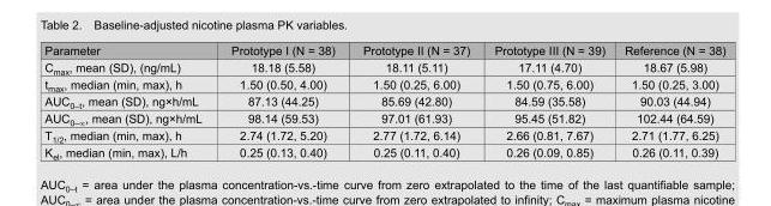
<table><thead><tr><td>Parameter</td><td>Prototype I (N = 38)</td><td>Prototype II (N = 37)</td><td>Prototype III (N = 39)</td><td>Reference (N = 38)</td></tr></thead><tbody><tr><td>C<sub>max</sub>, mean (SD), (ng/mL)</td><td>18.18 (5.58)</td><td>18.11 (5.11)</td><td>17.11 (4.70)</td><td>18.67 (5.98)</td></tr><tr><td>t<sub>max</sub>, median (min, max), h</td><td>1.50 (0.50, 4.00)</td><td>1.50 (0.25, 6.00)</td><td>1.50 (0.75, 6.00)</td><td>1.50 (0.25, 3.00)</td></tr><tr><td>AUC<sub>0–t</sub>, mean (SD), ng×h/mL</td><td>87.13 (44.25)</td><td>85.69 (42.80)</td><td>84.59 (35.58)</td><td>90.03 (44.94)</td></tr><tr><td>AUC<sub>0–∞</sub>, mean (SD), ng×h/mL</td><td>98.14 (59.53)</td><td>97.01 (61.93)</td><td>95.45 (51.82)</td><td>102.44 (64.59)</td></tr><tr><td>T<sub>1/2</sub>, median (min, max), h</td><td>2.74 (1.72, 5.20)</td><td>2.77 (1.72, 6.14)</td><td>2.66 (0.81, 7.67)</td><td>2.71 (1.77, 6.25)</td></tr><tr><td>K<sub>el</sub>, median (min, max), L/h</td><td>0.25 (0.13, 0.40)</td><td>0.25 (0.11, 0.40)</td><td>0.26 (0.09, 0.85)</td><td>0.26 (0.11, 0.39)</td></tr></tbody></table>